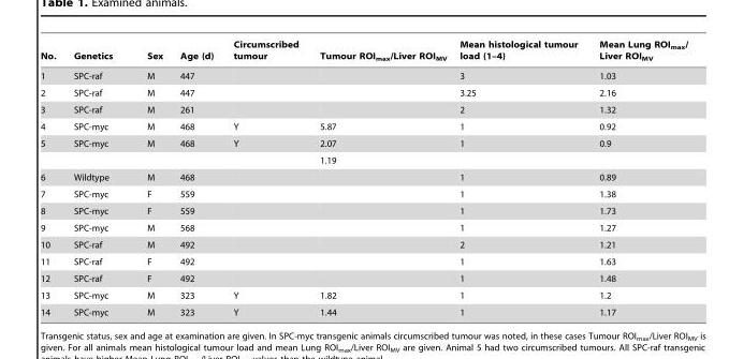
<table><thead><tr><td>No.</td><td>Genetics</td><td>Sex</td><td>Age (d)</td><td>Circumscribed tumour</td><td>Tumour ROI<sub>max</sub>/Liver ROI<sub>MV</sub></td><td>Mean histological tumour load (1–4)</td><td>Mean Lung ROI<sub>max</sub>/ Liver ROI<sub>MV</sub></td></tr></thead><tbody><tr><td>1</td><td>SPC-raf</td><td>M</td><td>447</td><td></td><td></td><td>3</td><td>1.03</td></tr><tr><td>2</td><td>SPC-raf</td><td>M</td><td>447</td><td></td><td></td><td>3.25</td><td>2.16</td></tr><tr><td>3</td><td>SPC-raf</td><td>M</td><td>261</td><td></td><td></td><td>2</td><td>1.32</td></tr><tr><td>4</td><td>SPC-myc</td><td>M</td><td>468</td><td>Y</td><td>5.87</td><td>1</td><td>0.92</td></tr><tr><td rowspan="2">5</td><td>SPC-myc</td><td>M</td><td>468</td><td>Y</td><td>2.07</td><td>1</td><td>0.9</td></tr><tr><td></td><td></td><td></td><td></td><td>1.19</td><td></td><td></td></tr><tr><td>6</td><td>Wildtype</td><td>M</td><td>468</td><td></td><td></td><td>1</td><td>0.89</td></tr><tr><td>7</td><td>SPC-myc</td><td>F</td><td>559</td><td></td><td></td><td>1</td><td>1.38</td></tr><tr><td>8</td><td>SPC-myc</td><td>F</td><td>559</td><td></td><td></td><td>1</td><td>1.73</td></tr><tr><td>9</td><td>SPC-myc</td><td>M</td><td>568</td><td></td><td></td><td>1</td><td>1.27</td></tr><tr><td>10</td><td>SPC-raf</td><td>M</td><td>492</td><td></td><td></td><td>2</td><td>1.21</td></tr><tr><td>11</td><td>SPC-raf</td><td>F</td><td>492</td><td></td><td></td><td>1</td><td>1.63</td></tr><tr><td>12</td><td>SPC-raf</td><td>F</td><td>492</td><td></td><td></td><td>1</td><td>1.48</td></tr><tr><td>13</td><td>SPC-myc</td><td>M</td><td>323</td><td>Y</td><td>1.82</td><td>1</td><td>1.2</td></tr><tr><td>14</td><td>SPC-myc</td><td>M</td><td>323</td><td>Y</td><td>1.44</td><td>1</td><td>1.17</td></tr></tbody></table>